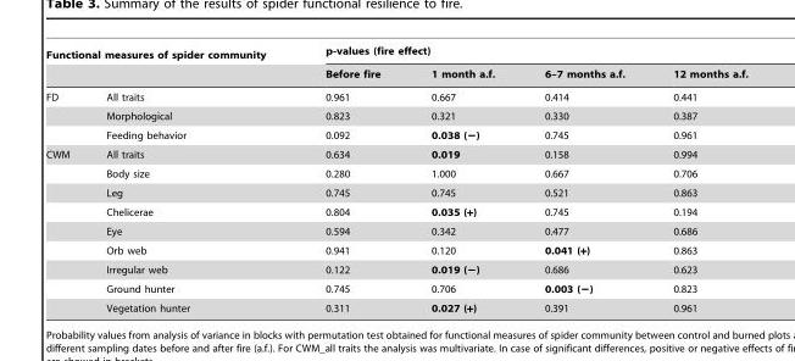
<table><thead><tr><td colspan="2">Functional measures of spider community</td><td colspan="4">p-values (fire effect)</td></tr><tr><td></td><td></td><td>Before fire</td><td>1 month a.f.</td><td>6–7 months a.f.</td><td>12 months a.f.</td></tr></thead><tbody><tr><td rowspan="3">FD</td><td>All traits</td><td>0.961</td><td>0.667</td><td>0.414</td><td>0.441</td></tr><tr><td>Morphological</td><td>0.823</td><td>0.321</td><td>0.330</td><td>0.387</td></tr><tr><td>Feeding behavior</td><td>0.092</td><td>0.038 (−)</td><td>0.745</td><td>0.961</td></tr><tr><td rowspan="9">CWM</td><td>All traits</td><td>0.634</td><td>0.019</td><td>0.158</td><td>0.994</td></tr><tr><td>Body size</td><td>0.280</td><td>1.000</td><td>0.667</td><td>0.706</td></tr><tr><td>Leg</td><td>0.745</td><td>0.745</td><td>0.521</td><td>0.863</td></tr><tr><td>Chelicerae</td><td>0.804</td><td>0.035 (+)</td><td>0.745</td><td>0.194</td></tr><tr><td>Eye</td><td>0.594</td><td>0.342</td><td>0.477</td><td>0.686</td></tr><tr><td>Orb web</td><td>0.941</td><td>0.120</td><td>0.041 (+)</td><td>0.863</td></tr><tr><td>Irregular web</td><td>0.122</td><td>0.019 (−)</td><td>0.686</td><td>0.623</td></tr><tr><td>Ground hunter</td><td>0.745</td><td>0.706</td><td>0.003 (−)</td><td>0.823</td></tr><tr><td>Vegetation hunter</td><td>0.311</td><td>0.027 (+)</td><td>0.391</td><td>0.961</td></tr></tbody></table>